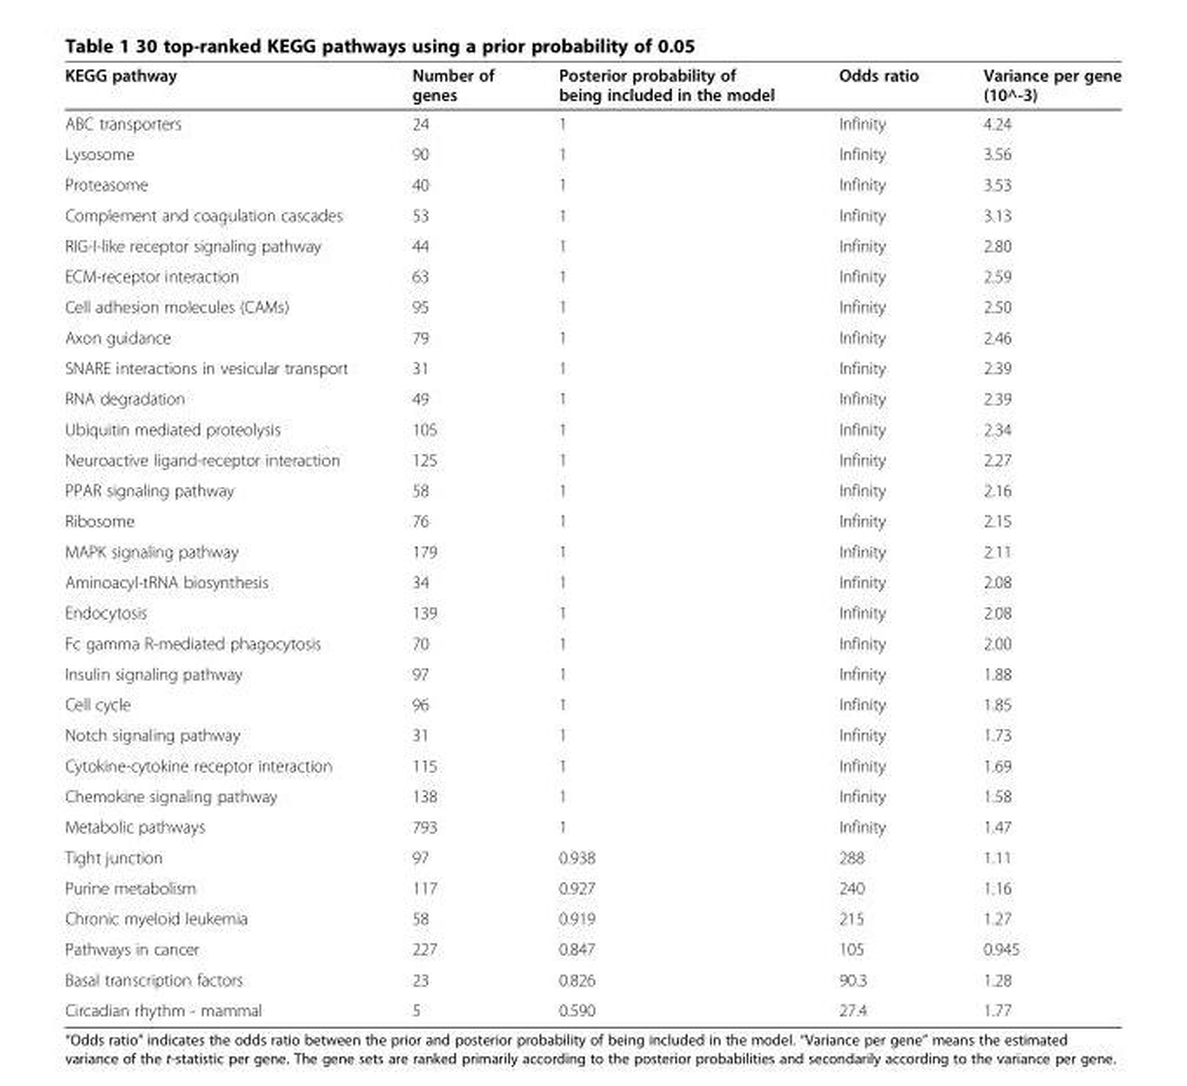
<table><thead><tr><td>KEGG pathway</td><td>Number of genes</td><td>Posterior probability of being included in the model</td><td>Odds ratio</td><td>Variance per gene (10^-3)</td></tr></thead><tbody><tr><td>ABC transporters</td><td>24</td><td>1</td><td>Infinity</td><td>4.24</td></tr><tr><td>Lysosome</td><td>90</td><td>1</td><td>Infinity</td><td>3.56</td></tr><tr><td>Proteasome</td><td>40</td><td>1</td><td>Infinity</td><td>3.53</td></tr><tr><td>Complement and coagulation cascades</td><td>53</td><td>1</td><td>Infinity</td><td>3.13</td></tr><tr><td>RIG-I-like receptor signaling pathway</td><td>44</td><td>1</td><td>Infinity</td><td>2.80</td></tr><tr><td>ECM-receptor interaction</td><td>63</td><td>1</td><td>Infinity</td><td>2.59</td></tr><tr><td>Cell adhesion molecules (CAMs)</td><td>95</td><td>1</td><td>Infinity</td><td>2.50</td></tr><tr><td>Axon guidance</td><td>79</td><td>1</td><td>Infinity</td><td>2.46</td></tr><tr><td>SNARE interactions in vesicular transport</td><td>31</td><td>1</td><td>Infinity</td><td>2.39</td></tr><tr><td>RNA degradation</td><td>49</td><td>1</td><td>Infinity</td><td>2.39</td></tr><tr><td>Ubiquitin mediated proteolysis</td><td>105</td><td>1</td><td>Infinity</td><td>2.34</td></tr><tr><td>Neuroactive ligand-receptor interaction</td><td>125</td><td>1</td><td>Infinity</td><td>2.27</td></tr><tr><td>PPAR signaling pathway</td><td>58</td><td>1</td><td>Infinity</td><td>2.16</td></tr><tr><td>Ribosome</td><td>76</td><td>1</td><td>Infinity</td><td>2.15</td></tr><tr><td>MAPK signaling pathway</td><td>179</td><td>1</td><td>Infinity</td><td>2.11</td></tr><tr><td>Aminoacyl-tRNA biosynthesis</td><td>34</td><td>1</td><td>Infinity</td><td>2.08</td></tr><tr><td>Endocytosis</td><td>139</td><td>1</td><td>Infinity</td><td>2.08</td></tr><tr><td>Fc gamma R-mediated phagocytosis</td><td>70</td><td>1</td><td>Infinity</td><td>2.00</td></tr><tr><td>Insulin signaling pathway</td><td>97</td><td>1</td><td>Infinity</td><td>1.88</td></tr><tr><td>Cell cycle</td><td>96</td><td>1</td><td>Infinity</td><td>1.85</td></tr><tr><td>Notch signaling pathway</td><td>31</td><td>1</td><td>Infinity</td><td>1.73</td></tr><tr><td>Cytokine-cytokine receptor interaction</td><td>115</td><td>1</td><td>Infinity</td><td>1.69</td></tr><tr><td>Chemokine signaling pathway</td><td>138</td><td>1</td><td>Infinity</td><td>1.58</td></tr><tr><td>Metabolic pathways</td><td>793</td><td>1</td><td>Infinity</td><td>1.47</td></tr><tr><td>Tight junction</td><td>97</td><td>0.938</td><td>288</td><td>1.11</td></tr><tr><td>Purine metabolism</td><td>117</td><td>0.927</td><td>240</td><td>1.16</td></tr><tr><td>Chronic myeloid leukemia</td><td>58</td><td>0.919</td><td>215</td><td>1.27</td></tr><tr><td>Pathways in cancer</td><td>227</td><td>0.847</td><td>105</td><td>0.945</td></tr><tr><td>Basal transcription factors</td><td>23</td><td>0.826</td><td>90.3</td><td>1.28</td></tr><tr><td>Circadian rhythm - mammal</td><td>5</td><td>0.590</td><td>27.4</td><td>1.77</td></tr></tbody></table>